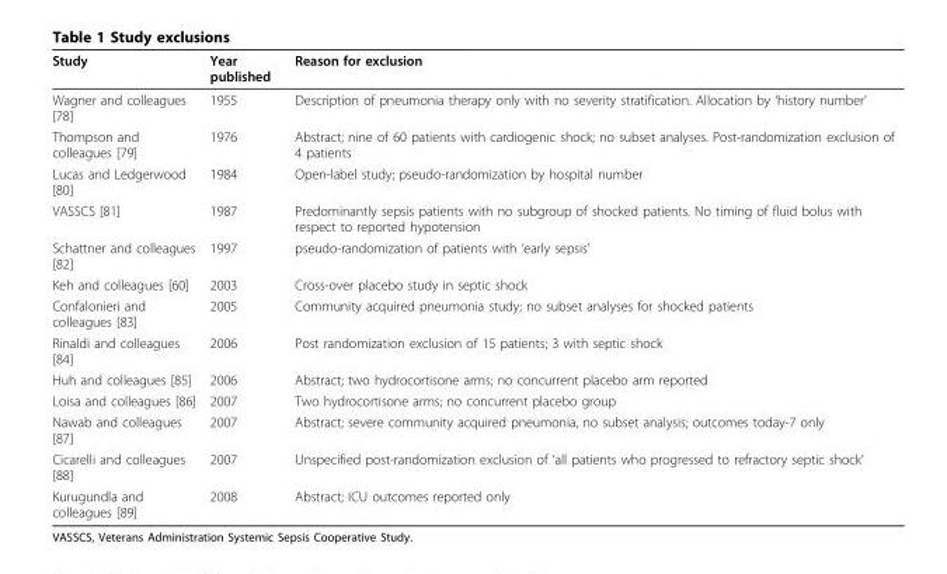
<table><thead><tr><td>Study</td><td>Year published</td><td>Reason for exclusion</td></tr></thead><tbody><tr><td>Wagner and colleagues [78]</td><td>1955</td><td>Description of pneumonia therapy only with no severity stratification. Allocation by ‘history number’</td></tr><tr><td>Thompson and colleagues [79]</td><td>1976</td><td>Abstract; nine of 60 patients with cardiogenic shock; no subset analyses. Post-randomization exclusion of 4 patients</td></tr><tr><td>Lucas and Ledgerwood [80]</td><td>1984</td><td>Open-label study; pseudo-randomization by hospital number</td></tr><tr><td>VASSCS [81]</td><td>1987</td><td>Predominantly sepsis patients with no subgroup of shocked patients. No timing of fluid bolus with respect to reported hypotension</td></tr><tr><td>Schattner and colleagues [82]</td><td>1997</td><td>pseudo-randomization of patients with ‘early sepsis’</td></tr><tr><td>Keh and colleagues [60]</td><td>2003</td><td>Cross-over placebo study in septic shock</td></tr><tr><td>Confalonieri and colleagues [83]</td><td>2005</td><td>Community acquired pneumonia study; no subset analyses for shocked patients</td></tr><tr><td>Rinaldi and colleagues [84]</td><td>2006</td><td>Post randomization exclusion of 15 patients; 3 with septic shock</td></tr><tr><td>Huh and colleagues [85]</td><td>2006</td><td>Abstract; two hydrocortisone arms; no concurrent placebo arm reported</td></tr><tr><td>Loisa and colleagues [86]</td><td>2007</td><td>Two hydrocortisone arms; no concurrent placebo group</td></tr><tr><td>Nawab and colleagues [87]</td><td>2007</td><td>Abstract; severe community acquired pneumonia, no subset analysis; outcomes today-7 only</td></tr><tr><td>Cicarelli and colleagues [88]</td><td>2007</td><td>Unspecified post-randomization exclusion of ‘all patients who progressed to refractory septic shock’</td></tr><tr><td>Kurugundla and colleagues [89]</td><td>2008</td><td>Abstract; ICU outcomes reported only</td></tr></tbody></table>